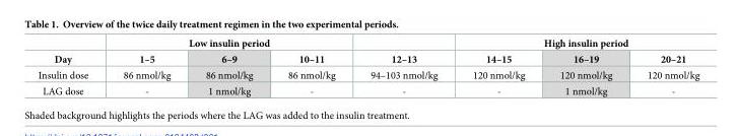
<table><thead><tr><td rowspan="2">Day</td><td colspan="3">Low insulin period</td><td rowspan="2">12–13</td><td colspan="3">High insulin period</td></tr><tr><td>1–5</td><td>6–9</td><td>10–11</td><td>14–15</td><td>16–19</td><td>20–21</td></tr></thead><tbody><tr><td>Insulin dose</td><td>86 nmol/kg</td><td>86 nmol/kg</td><td>86 nmol/kg</td><td>94–103 nmol/kg</td><td>120 nmol/kg</td><td>120 nmol/kg</td><td>120 nmol/kg</td></tr><tr><td>LAG dose</td><td>-</td><td>1 nmol/kg</td><td>-</td><td>-</td><td>-</td><td>1 nmol/kg</td><td>-</td></tr></tbody></table>